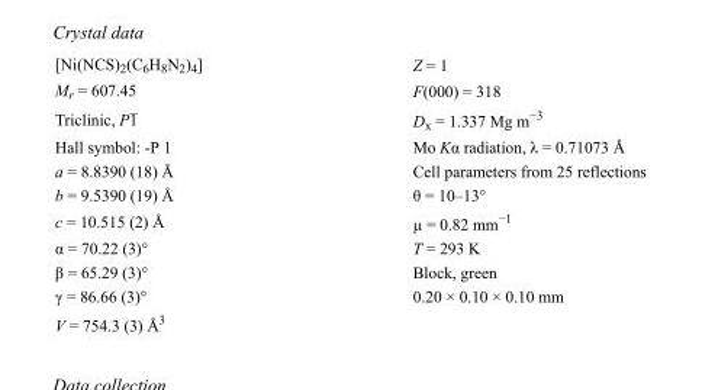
<table><tbody><tr><td>[Ni(NCS)<sub>2</sub>(C<sub>6</sub>H<sub>8</sub>N<sub>2</sub>)<sub>4</sub>]</td><td>Z = 1</td></tr><tr><td>M<sub>r</sub> = 607.45</td><td>F(000) = 318</td></tr><tr><td>Triclinic, P1</td><td>D<sub>x</sub> = 1.337 Mg m<sup>−3</sup></td></tr><tr><td>Hall symbol: -P 1</td><td>Mo Kα radiation, λ = 0.71073 Å</td></tr><tr><td>a = 8.8390 (18) Å</td><td>Cell parameters from 25 reflections</td></tr><tr><td>b = 9.5390 (19) Å</td><td>θ = 10–13°</td></tr><tr><td>c = 10.515 (2) Å</td><td>µ = 0.82 mm<sup>−1</sup></td></tr><tr><td>α = 70.22 (3)°</td><td>T = 293 K</td></tr><tr><td>β = 65.29 (3)°</td><td>Block, green</td></tr><tr><td>γ = 86.66 (3)°</td><td>0.20 × 0.10 × 0.10 mm</td></tr><tr><td>V = 754.3 (3) Å<sup>3</sup></td><td></td></tr></tbody></table>